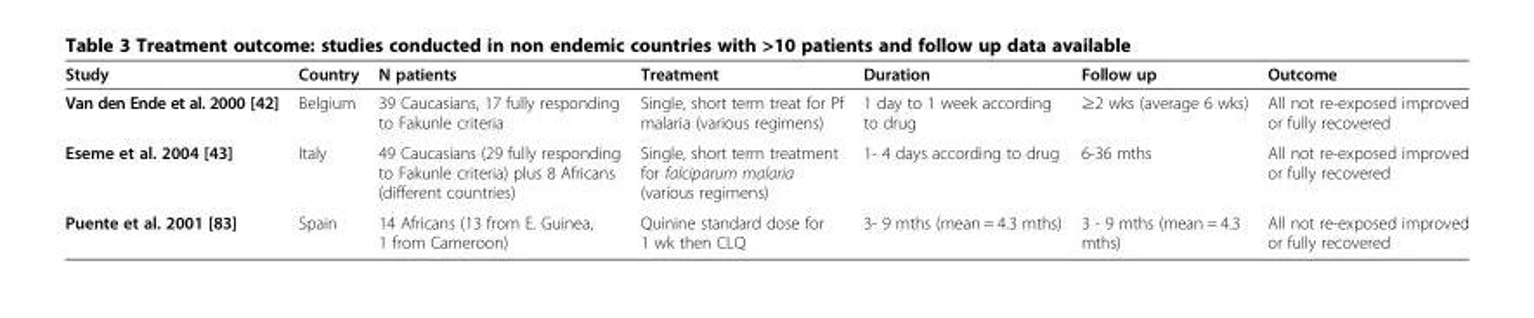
<table><thead><tr><td>Study</td><td>Country</td><td>N patients</td><td>Treatment</td><td>Duration</td><td>Follow up</td><td>Outcome</td></tr></thead><tbody><tr><td>Van den Ende et al. 2000 [42]</td><td>Belgium</td><td>39 Caucasians, 17 fully responding to Fakunle criteria</td><td>Single, short term treat for Pf malaria (various regimens)</td><td>1 day to 1 week according to drug</td><td>≥2 wks (average 6 wks)</td><td>All not re-exposed improved or fully recovered</td></tr><tr><td>Eseme et al. 2004 [43]</td><td>Italy</td><td>49 Caucasians (29 fully responding to Fakunle criteria) plus 8 Africans (different countries)</td><td>Single, short term treatment for falciparum malaria (various regimens)</td><td>1- 4 days according to drug</td><td>6-36 mths</td><td>All not re-exposed improved or fully recovered</td></tr><tr><td>Puente et al. 2001 [83]</td><td>Spain</td><td>14 Africans (13 from E. Guinea, 1 from Cameroon)</td><td>Quinine standard dose for 1 wk then CLQ</td><td>3- 9 mths (mean = 4.3 mths)</td><td>3 - 9 mths (mean = 4.3 mths)</td><td>All not re-exposed improved or fully recovered</td></tr></tbody></table>